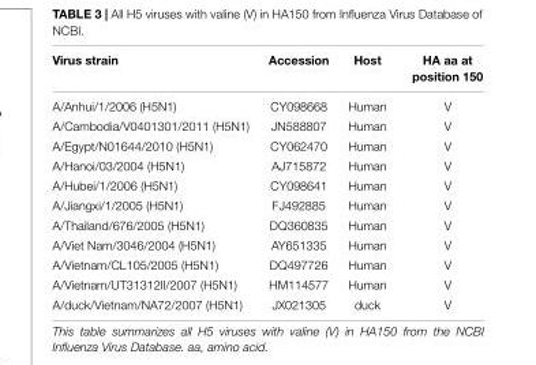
<table><thead><tr><td>Virus strain</td><td>Accession</td><td>Host</td><td>HA aa at position 150</td></tr></thead><tbody><tr><td>A/Anhui/1/2006 (H5N1)</td><td>CY098668</td><td>Human</td><td>V</td></tr><tr><td>A/Cambodia/V0401301/2011 (H5N1)</td><td>JN588807</td><td>Human</td><td>V</td></tr><tr><td>A/Egypt/N01644/2010 (H5N1)</td><td>CY062470</td><td>Human</td><td>V</td></tr><tr><td>A/Hanoi/03/2004 (H5N1)</td><td>AJ715872</td><td>Human</td><td>V</td></tr><tr><td>A/Hubei/1/2006 (H5N1)</td><td>CY098641</td><td>Human</td><td>V</td></tr><tr><td>A/Jiangxi/1/2005 (H5N1)</td><td>FJ492885</td><td>Human</td><td>V</td></tr><tr><td>A/Thailand/676/2005 (H5N1)</td><td>DQ360835</td><td>Human</td><td>V</td></tr><tr><td>A/Viet Nam/3046/2004 (H5N1)</td><td>AY651335</td><td>Human</td><td>V</td></tr><tr><td>A/Vietnam/CL105/2005 (H5N1)</td><td>DQ497726</td><td>Human</td><td>V</td></tr><tr><td>A/Vietnam/UT31312II/2007 (H5N1)</td><td>HM114577</td><td>Human</td><td>V</td></tr><tr><td>A/duck/Vietnam/NA72/2007 (H5N1)</td><td>JX021305</td><td>duck</td><td>V</td></tr></tbody></table>